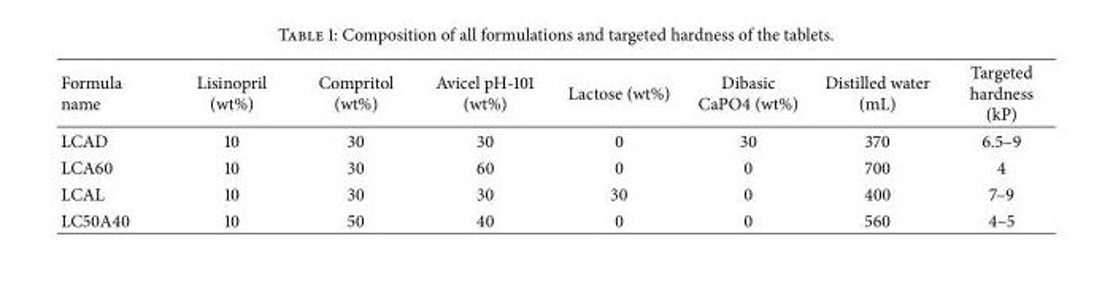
<table><thead><tr><td>Formula name</td><td>Lisinopril (wt%)</td><td>Compritol (wt%)</td><td>Avicel pH-101 (wt%)</td><td>Lactose (wt%)</td><td>Dibasic CaPO4 (wt%)</td><td>Distilled water (mL)</td><td>Targeted hardness (kP)</td></tr></thead><tbody><tr><td>LCAD</td><td>10</td><td>30</td><td>30</td><td>0</td><td>30</td><td>370</td><td>6.5–9</td></tr><tr><td>LCA60</td><td>10</td><td>30</td><td>60</td><td>0</td><td>0</td><td>700</td><td>4</td></tr><tr><td>LCAL</td><td>10</td><td>30</td><td>30</td><td>30</td><td>0</td><td>400</td><td>7–9</td></tr><tr><td>LC50A40</td><td>10</td><td>50</td><td>40</td><td>0</td><td>0</td><td>560</td><td>4–5</td></tr></tbody></table>